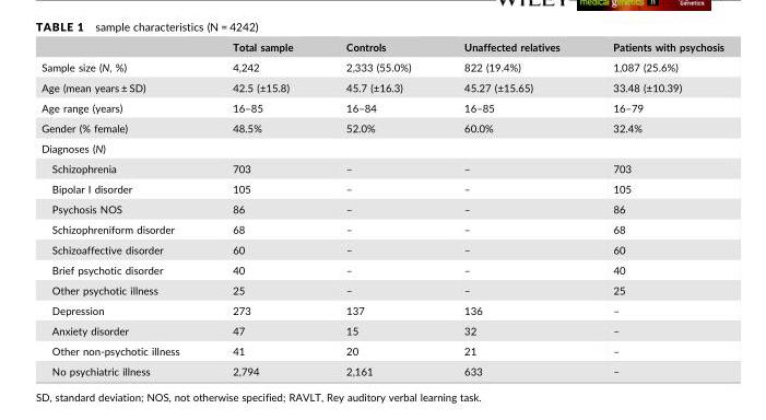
<table><thead><tr><td></td><td>Total sample</td><td>Controls</td><td>Unaffected relatives</td><td>Patients with psychosis</td></tr></thead><tbody><tr><td>Sample size (N, %)</td><td>4,242</td><td>2,333 (55.0%)</td><td>822 (19.4%)</td><td>1,087 (25.6%)</td></tr><tr><td>Age (mean years ± SD)</td><td>42.5 (±15.8)</td><td>45.7 (±16.3)</td><td>45.27 (±15.65)</td><td>33.48 (±10.39)</td></tr><tr><td>Age range (years)</td><td>16–85</td><td>16–84</td><td>16–85</td><td>16–79</td></tr><tr><td>Gender (% female)</td><td>48.5%</td><td>52.0%</td><td>60.0%</td><td>32.4%</td></tr><tr><td colspan="5">Diagnoses (N)</td></tr><tr><td>Schizophrenia</td><td>703</td><td>–</td><td>–</td><td>703</td></tr><tr><td>Bipolar I disorder</td><td>105</td><td>–</td><td>–</td><td>105</td></tr><tr><td>Psychosis NOS</td><td>86</td><td>–</td><td>–</td><td>86</td></tr><tr><td>Schizophreniform disorder</td><td>68</td><td>–</td><td>–</td><td>68</td></tr><tr><td>Schizoaffective disorder</td><td>60</td><td>–</td><td>–</td><td>60</td></tr><tr><td>Brief psychotic disorder</td><td>40</td><td>–</td><td>–</td><td>40</td></tr><tr><td>Other psychotic illness</td><td>25</td><td>–</td><td>–</td><td>25</td></tr><tr><td>Depression</td><td>273</td><td>137</td><td>136</td><td>–</td></tr><tr><td>Anxiety disorder</td><td>47</td><td>15</td><td>32</td><td>–</td></tr><tr><td>Other non-psychotic illness</td><td>41</td><td>20</td><td>21</td><td>–</td></tr><tr><td>No psychiatric illness</td><td>2,794</td><td>2,161</td><td>633</td><td>–</td></tr></tbody></table>